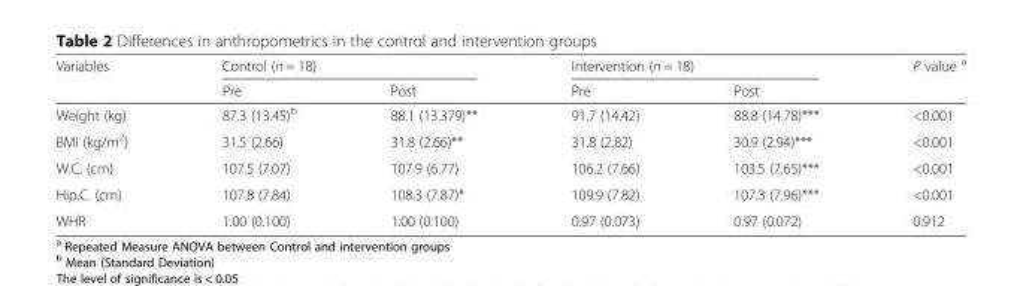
<table><thead><tr><td rowspan="2">Variables</td><td colspan="2">Control (n = 18)</td><td colspan="2">Intervention (n = 18)</td><td rowspan="2">P value <sup>a</sup></td></tr><tr><td>Pre</td><td>Post</td><td>Pre</td><td>Post</td></tr></thead><tbody><tr><td>Weight (kg)</td><td>87.3 (13.45)<sup>b</sup></td><td>88.1 (13.379)**</td><td>91.7 (14.42)</td><td>88.8 (14.78)***</td><td>&lt;0.001</td></tr><tr><td>BMI (kg/m<sup>2</sup>)</td><td>31.5 (2.66)</td><td>31.8 (2.66)**</td><td>31.8 (2.82)</td><td>30.9 (2.94)***</td><td>&lt;0.001</td></tr><tr><td>W.C. (cm)</td><td>107.5 (7.07)</td><td>107.9 (6.77)</td><td>106.2 (7.66)</td><td>103.5 (7.65)***</td><td>&lt;0.001</td></tr><tr><td>Hip.C. (cm)</td><td>107.8 (7.84)</td><td>108.3 (7.87)*</td><td>109.9 (7.82)</td><td>107.3 (7.96)***</td><td>&lt;0.001</td></tr><tr><td>WHR</td><td>1.00 (0.100)</td><td>1.00 (0.100)</td><td>0.97 (0.073)</td><td>0.97 (0.072)</td><td>0.912</td></tr></tbody></table>